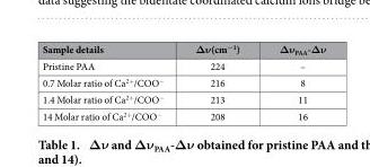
<table><thead><tr><td>Sample details</td><td>Δν(cm<sup>−1</sup>)</td><td>Δν<sub>PAA</sub>-Δν</td></tr></thead><tbody><tr><td>Pristine PAA</td><td>224</td><td>–</td></tr><tr><td>0.7 Molar ratio of Ca<sup>2+</sup>/COO<sup>−</sup></td><td>216</td><td>8</td></tr><tr><td>1.4 Molar ratio of Ca<sup>2+</sup>/COO<sup>−</sup></td><td>213</td><td>11</td></tr><tr><td>14 Molar ratio of Ca<sup>2+</sup>/COO<sup>−</sup></td><td>208</td><td>16</td></tr></tbody></table>